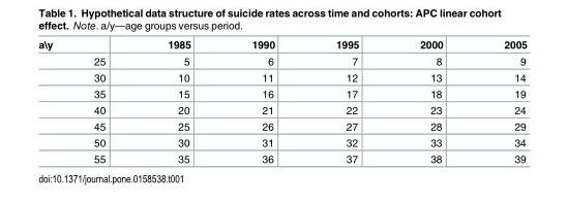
<table><thead><tr><td>a\y</td><td>1985</td><td>1990</td><td>1995</td><td>2000</td><td>2005</td></tr></thead><tbody><tr><td>25</td><td>5</td><td>6</td><td>7</td><td>8</td><td>9</td></tr><tr><td>30</td><td>10</td><td>11</td><td>12</td><td>13</td><td>14</td></tr><tr><td>35</td><td>15</td><td>16</td><td>17</td><td>18</td><td>19</td></tr><tr><td>40</td><td>20</td><td>21</td><td>22</td><td>23</td><td>24</td></tr><tr><td>45</td><td>25</td><td>26</td><td>27</td><td>28</td><td>29</td></tr><tr><td>50</td><td>30</td><td>31</td><td>32</td><td>33</td><td>34</td></tr><tr><td>55</td><td>35</td><td>36</td><td>37</td><td>38</td><td>39</td></tr></tbody></table>